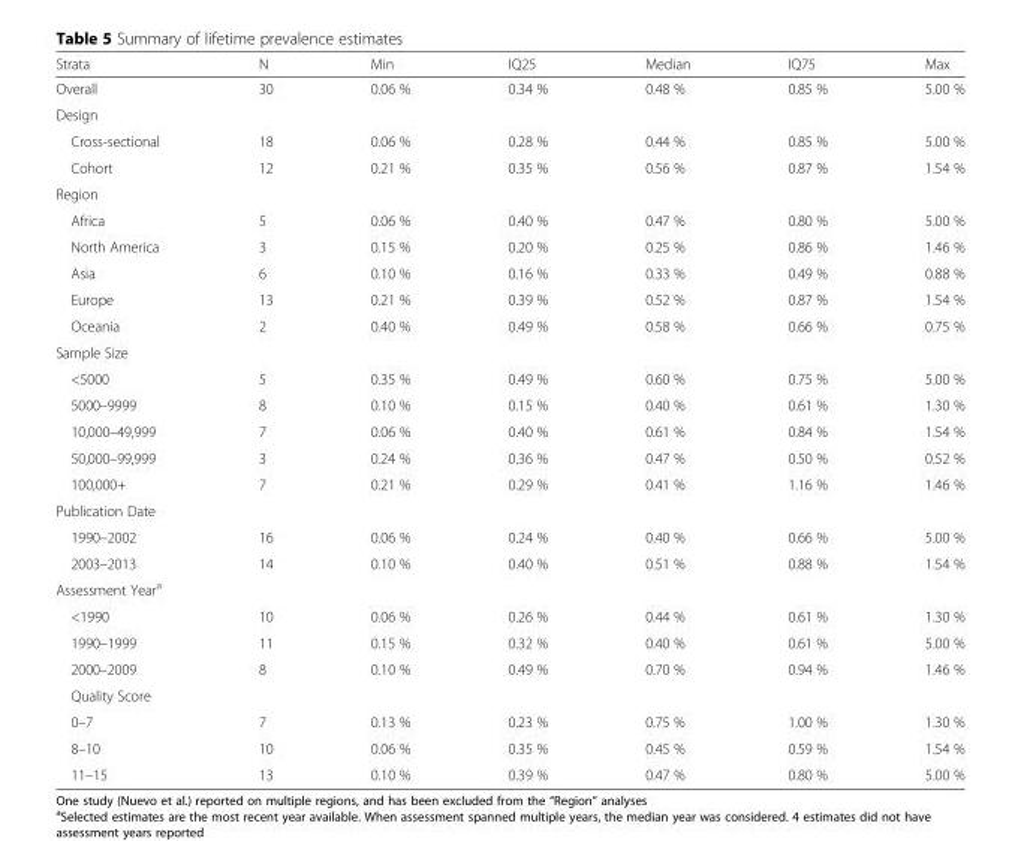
<table><thead><tr><td>Strata</td><td>N</td><td>Min</td><td>IQ25</td><td>Median</td><td>IQ75</td><td>Max</td></tr></thead><tbody><tr><td>Overall</td><td>30</td><td>0.06 %</td><td>0.34 %</td><td>0.48 %</td><td>0.85 %</td><td>5.00 %</td></tr><tr><td colspan="7">Design</td></tr><tr><td>Cross-sectional</td><td>18</td><td>0.06 %</td><td>0.28 %</td><td>0.44 %</td><td>0.85 %</td><td>5.00 %</td></tr><tr><td>Cohort</td><td>12</td><td>0.21 %</td><td>0.35 %</td><td>0.56 %</td><td>0.87 %</td><td>1.54 %</td></tr><tr><td colspan="7">Region</td></tr><tr><td>Africa</td><td>5</td><td>0.06 %</td><td>0.40 %</td><td>0.47 %</td><td>0.80 %</td><td>5.00 %</td></tr><tr><td>North America</td><td>3</td><td>0.15 %</td><td>0.20 %</td><td>0.25 %</td><td>0.86 %</td><td>1.46 %</td></tr><tr><td>Asia</td><td>6</td><td>0.10 %</td><td>0.16 %</td><td>0.33 %</td><td>0.49 %</td><td>0.88 %</td></tr><tr><td>Europe</td><td>13</td><td>0.21 %</td><td>0.39 %</td><td>0.52 %</td><td>0.87 %</td><td>1.54 %</td></tr><tr><td>Oceania</td><td>2</td><td>0.40 %</td><td>0.49 %</td><td>0.58 %</td><td>0.66 %</td><td>0.75 %</td></tr><tr><td colspan="7">Sample Size</td></tr><tr><td>&lt;5000</td><td>5</td><td>0.35 %</td><td>0.49 %</td><td>0.60 %</td><td>0.75 %</td><td>5.00 %</td></tr><tr><td>5000–9999</td><td>8</td><td>0.10 %</td><td>0.15 %</td><td>0.40 %</td><td>0.61 %</td><td>1.30 %</td></tr><tr><td>10,000–49,999</td><td>7</td><td>0.06 %</td><td>0.40 %</td><td>0.61 %</td><td>0.84 %</td><td>1.54 %</td></tr><tr><td>50,000–99,999</td><td>3</td><td>0.24 %</td><td>0.36 %</td><td>0.47 %</td><td>0.50 %</td><td>0.52 %</td></tr><tr><td>100,000+</td><td>7</td><td>0.21 %</td><td>0.29 %</td><td>0.41 %</td><td>1.16 %</td><td>1.46 %</td></tr><tr><td colspan="7">Publication Date</td></tr><tr><td>1990–2002</td><td>16</td><td>0.06 %</td><td>0.24 %</td><td>0.40 %</td><td>0.66 %</td><td>5.00 %</td></tr><tr><td>2003–2013</td><td>14</td><td>0.10 %</td><td>0.40 %</td><td>0.51 %</td><td>0.88 %</td><td>1.54 %</td></tr><tr><td colspan="7">Assessment Year<sup>a</sup></td></tr><tr><td>&lt;1990</td><td>10</td><td>0.06 %</td><td>0.26 %</td><td>0.44 %</td><td>0.61 %</td><td>1.30 %</td></tr><tr><td>1990–1999</td><td>11</td><td>0.15 %</td><td>0.32 %</td><td>0.40 %</td><td>0.61 %</td><td>5.00 %</td></tr><tr><td>2000–2009</td><td>8</td><td>0.10 %</td><td>0.49 %</td><td>0.70 %</td><td>0.94 %</td><td>1.46 %</td></tr><tr><td colspan="7">Quality Score</td></tr><tr><td>0–7</td><td>7</td><td>0.13 %</td><td>0.23 %</td><td>0.75 %</td><td>1.00 %</td><td>1.30 %</td></tr><tr><td>8–10</td><td>10</td><td>0.06 %</td><td>0.35 %</td><td>0.45 %</td><td>0.59 %</td><td>1.54 %</td></tr><tr><td>11–15</td><td>13</td><td>0.10 %</td><td>0.39 %</td><td>0.47 %</td><td>0.80 %</td><td>5.00 %</td></tr></tbody></table>